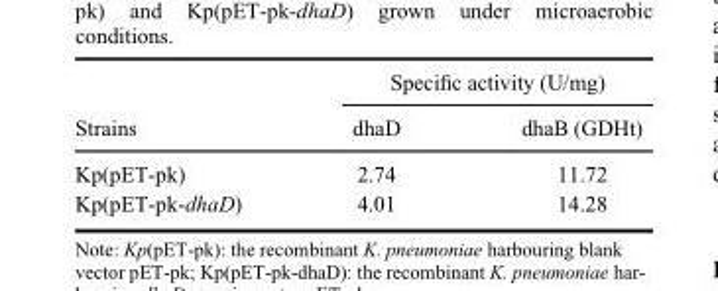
<table><thead><tr><td rowspan="2">Strains</td><td colspan="2">Specific activity (U/mg)</td></tr><tr><td>dhaD</td><td>dhaB (GDHt)</td></tr></thead><tbody><tr><td>Kp(pET-pk)</td><td>2.74</td><td>11.72</td></tr><tr><td>Kp(pET-pk-dhaD)</td><td>4.01</td><td>14.28</td></tr></tbody></table>